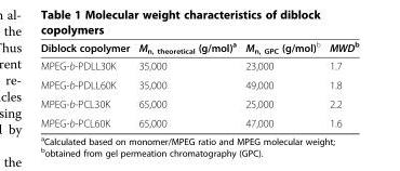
<table><thead><tr><td>Diblock copolymer</td><td>M<sub>n, theoretical</sub> (g/mol)<sup>a</sup></td><td>M<sub>n, GPC</sub> (g/mol)<sup>b</sup></td><td>MWD<sup>b</sup></td></tr></thead><tbody><tr><td>MPEG-b-PDLL30K</td><td>35,000</td><td>23,000</td><td>1.7</td></tr><tr><td>MPEG-b-PDLL60K</td><td>35,000</td><td>49,000</td><td>1.8</td></tr><tr><td>MPEG-b-PCL30K</td><td>65,000</td><td>25,000</td><td>2.2</td></tr><tr><td>MPEG-b-PCL60K</td><td>65,000</td><td>47,000</td><td>1.6</td></tr></tbody></table>